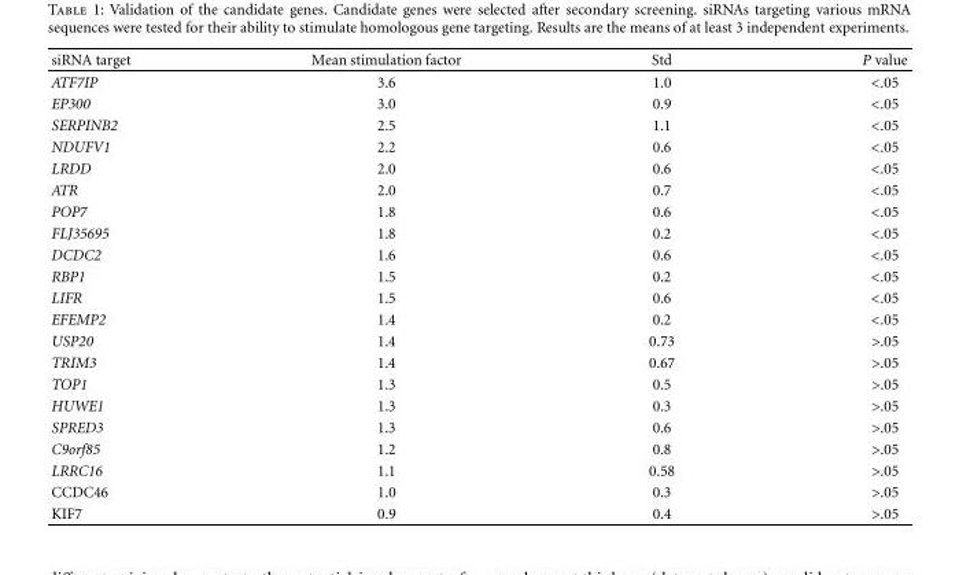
<table><thead><tr><td>siRNA target</td><td>Mean stimulation factor</td><td>Std</td><td>P value</td></tr></thead><tbody><tr><td>ATF7IP</td><td>3.6</td><td>1.0</td><td>&lt;.05</td></tr><tr><td>EP300</td><td>3.0</td><td>0.9</td><td>&lt;.05</td></tr><tr><td>SERPINB2</td><td>2.5</td><td>1.1</td><td>&lt;.05</td></tr><tr><td>NDUFV1</td><td>2.2</td><td>0.6</td><td>&lt;.05</td></tr><tr><td>LRDD</td><td>2.0</td><td>0.6</td><td>&lt;.05</td></tr><tr><td>ATR</td><td>2.0</td><td>0.7</td><td>&lt;.05</td></tr><tr><td>POP7</td><td>1.8</td><td>0.6</td><td>&lt;.05</td></tr><tr><td>FLJ35695</td><td>1.8</td><td>0.2</td><td>&lt;.05</td></tr><tr><td>DCDC2</td><td>1.6</td><td>0.6</td><td>&lt;.05</td></tr><tr><td>RBP1</td><td>1.5</td><td>0.2</td><td>&lt;.05</td></tr><tr><td>LIFR</td><td>1.5</td><td>0.6</td><td>&lt;.05</td></tr><tr><td>EFEMP2</td><td>1.4</td><td>0.2</td><td>&lt;.05</td></tr><tr><td>USP20</td><td>1.4</td><td>0.73</td><td>&gt;.05</td></tr><tr><td>TRIM3</td><td>1.4</td><td>0.67</td><td>&gt;.05</td></tr><tr><td>TOP1</td><td>1.3</td><td>0.5</td><td>&gt;.05</td></tr><tr><td>HUWE1</td><td>1.3</td><td>0.3</td><td>&gt;.05</td></tr><tr><td>SPRED3</td><td>1.3</td><td>0.6</td><td>&gt;.05</td></tr><tr><td>C9orf85</td><td>1.2</td><td>0.8</td><td>&gt;.05</td></tr><tr><td>LRRC16</td><td>1.1</td><td>0.58</td><td>&gt;.05</td></tr><tr><td>CCDC46</td><td>1.0</td><td>0.3</td><td>&gt;.05</td></tr><tr><td>KIF7</td><td>0.9</td><td>0.4</td><td>&gt;.05</td></tr></tbody></table>